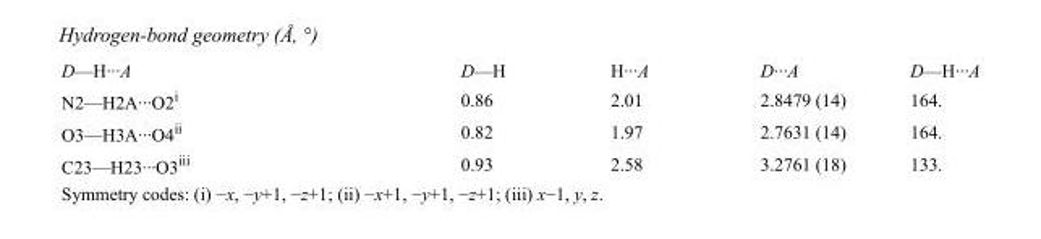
<table><tbody><tr><td>D—H···A</td><td>D—H</td><td>H···A</td><td>D···A</td><td>D—H···A</td></tr><tr><td>N2—H2A···O2<sup>i</sup></td><td>0.86</td><td>2.01</td><td>2.8479 (14)</td><td>164.</td></tr><tr><td>O3—H3A···O4<sup>ii</sup></td><td>0.82</td><td>1.97</td><td>2.7631 (14)</td><td>164.</td></tr><tr><td>C23—H23···O3<sup>iii</sup></td><td>0.93</td><td>2.58</td><td>3.2761 (18)</td><td>133.</td></tr></tbody></table>